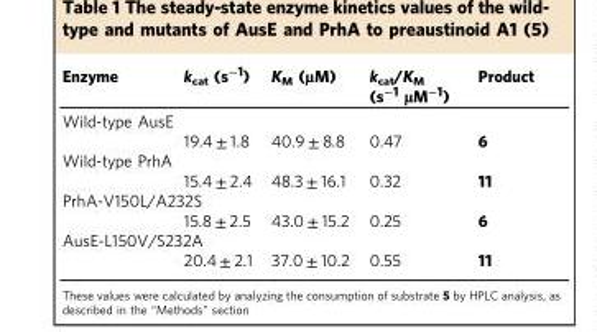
<table><thead><tr><td>Enzyme</td><td>k<sub>cat</sub> (s<sup>−1</sup>)</td><td>K<sub>M</sub> (µM)</td><td>k<sub>cat</sub>/K<sub>M</sub> (s<sup>−1</sup> µM<sup>−1</sup>)</td><td>Product</td></tr></thead><tbody><tr><td colspan="5">Wild-type AusE</td></tr><tr><td></td><td>19.4 ± 1.8</td><td>40.9 ± 8.8</td><td>0.47</td><td>6</td></tr><tr><td colspan="5">Wild-type PrhA</td></tr><tr><td></td><td>15.4 ± 2.4</td><td>48.3 ± 16.1</td><td>0.32</td><td>11</td></tr><tr><td colspan="5">PrhA-V150L/A232S</td></tr><tr><td></td><td>15.8 ± 2.5</td><td>43.0 ± 15.2</td><td>0.25</td><td>6</td></tr><tr><td colspan="5">AusE-L150V/S232A</td></tr><tr><td></td><td>20.4 ± 2.1</td><td>37.0 ± 10.2</td><td>0.55</td><td>11</td></tr></tbody></table>